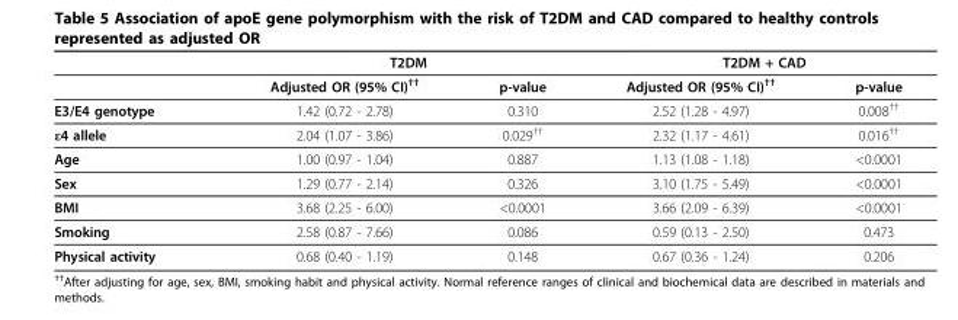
<table><thead><tr><td rowspan="2"></td><td colspan="2">T2DM</td><td colspan="2">T2DM + CAD</td></tr><tr><td>Adjusted OR (95% CI)<sup>††</sup></td><td>p-value</td><td>Adjusted OR (95% CI)<sup>††</sup></td><td>p-value</td></tr></thead><tbody><tr><td>E3/E4 genotype</td><td>1.42 (0.72 - 2.78)</td><td>0.310</td><td>2.52 (1.28 - 4.97)</td><td>0.008<sup>††</sup></td></tr><tr><td>ε4 allele</td><td>2.04 (1.07 - 3.86)</td><td>0.029<sup>††</sup></td><td>2.32 (1.17 - 4.61)</td><td>0.016<sup>††</sup></td></tr><tr><td>Age</td><td>1.00 (0.97 - 1.04)</td><td>0.887</td><td>1.13 (1.08 - 1.18)</td><td>&lt;0.0001</td></tr><tr><td>Sex</td><td>1.29 (0.77 - 2.14)</td><td>0.326</td><td>3.10 (1.75 - 5.49)</td><td>&lt;0.0001</td></tr><tr><td>BMI</td><td>3.68 (2.25 - 6.00)</td><td>&lt;0.0001</td><td>3.66 (2.09 - 6.39)</td><td>&lt;0.0001</td></tr><tr><td>Smoking</td><td>2.58 (0.87 - 7.66)</td><td>0.086</td><td>0.59 (0.13 - 2.50)</td><td>0.473</td></tr><tr><td>Physical activity</td><td>0.68 (0.40 - 1.19)</td><td>0.148</td><td>0.67 (0.36 - 1.24)</td><td>0.206</td></tr></tbody></table>